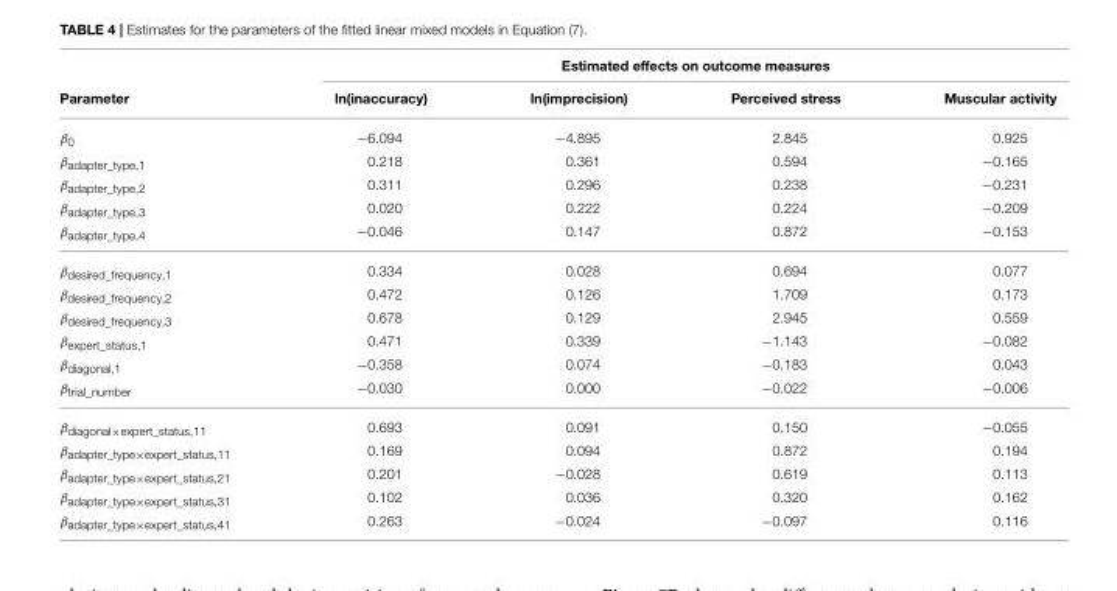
<table><thead><tr><td rowspan="2">Parameter</td><td colspan="4">Estimated effects on outcome measures</td></tr><tr><td>ln(inaccuracy)</td><td>ln(imprecision)</td><td>Perceived stress</td><td>Muscular activity</td></tr></thead><tbody><tr><td>β<sub>0</sub></td><td>−6.094</td><td>−4.895</td><td>2.845</td><td>0.925</td></tr><tr><td>β<sub>adapter_type,1</sub></td><td>0.218</td><td>0.361</td><td>0.594</td><td>−0.165</td></tr><tr><td>β<sub>adapter_type,2</sub></td><td>0.311</td><td>0.296</td><td>0.238</td><td>−0.231</td></tr><tr><td>β<sub>adapter_type,3</sub></td><td>0.020</td><td>0.222</td><td>0.224</td><td>−0.209</td></tr><tr><td>β<sub>adapter_type,4</sub></td><td>−0.046</td><td>0.147</td><td>0.872</td><td>−0.153</td></tr><tr><td>β<sub>desired_frequency,1</sub></td><td>0.334</td><td>0.028</td><td>0.694</td><td>0.077</td></tr><tr><td>β<sub>desired_frequency,2</sub></td><td>0.472</td><td>0.126</td><td>1.709</td><td>0.173</td></tr><tr><td>β<sub>desired_frequency,3</sub></td><td>0.678</td><td>0.129</td><td>2.945</td><td>0.559</td></tr><tr><td>β<sub>expert_status,1</sub></td><td>0.471</td><td>0.339</td><td>−1.143</td><td>−0.082</td></tr><tr><td>β<sub>diagonal,1</sub></td><td>−0.358</td><td>0.074</td><td>−0.183</td><td>0.043</td></tr><tr><td>β<sub>trial_number</sub></td><td>−0.030</td><td>0.000</td><td>−0.022</td><td>−0.006</td></tr><tr><td>β<sub>diagonal×expert_status,11</sub></td><td>0.693</td><td>0.091</td><td>0.150</td><td>−0.055</td></tr><tr><td>β<sub>adapter_type×expert_status,11</sub></td><td>0.169</td><td>0.094</td><td>0.872</td><td>0.194</td></tr><tr><td>β<sub>adapter_type×expert_status,21</sub></td><td>0.201</td><td>−0.028</td><td>0.619</td><td>0.113</td></tr><tr><td>β<sub>adapter_type×expert_status,31</sub></td><td>0.102</td><td>0.036</td><td>0.320</td><td>0.162</td></tr><tr><td>β<sub>adapter_type×expert_status,41</sub></td><td>0.263</td><td>−0.024</td><td>−0.097</td><td>0.116</td></tr></tbody></table>